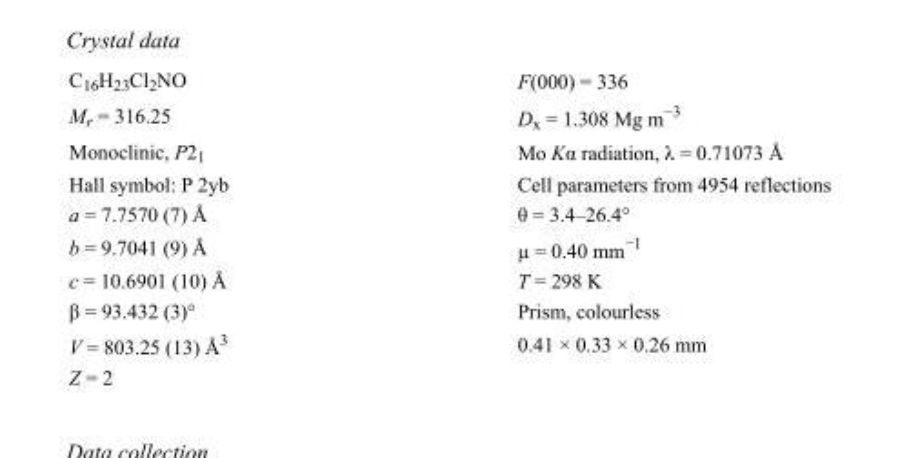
<table><tbody><tr><td>C<sub>16</sub>H<sub>23</sub>Cl<sub>2</sub>NO</td><td>F(000) = 336</td></tr><tr><td>M<sub>r</sub> = 316.25</td><td>D<sub>x</sub> = 1.308 Mg m<sup>−3</sup></td></tr><tr><td>Monoclinic, P2<sub>1</sub></td><td>Mo Kα radiation, λ = 0.71073 Å</td></tr><tr><td>Hall symbol: P 2yb</td><td>Cell parameters from 4954 reflections</td></tr><tr><td>a = 7.7570 (7) Å</td><td>θ = 3.4–26.4°</td></tr><tr><td>b = 9.7041 (9) Å</td><td>µ = 0.40 mm<sup>−1</sup></td></tr><tr><td>c = 10.6901 (10) Å</td><td>T = 298 K</td></tr><tr><td>β = 93.432 (3)°</td><td>Prism, colourless</td></tr><tr><td>V = 803.25 (13) Å<sup>3</sup></td><td>0.41 × 0.33 × 0.26 mm</td></tr><tr><td>Z = 2</td><td></td></tr></tbody></table>